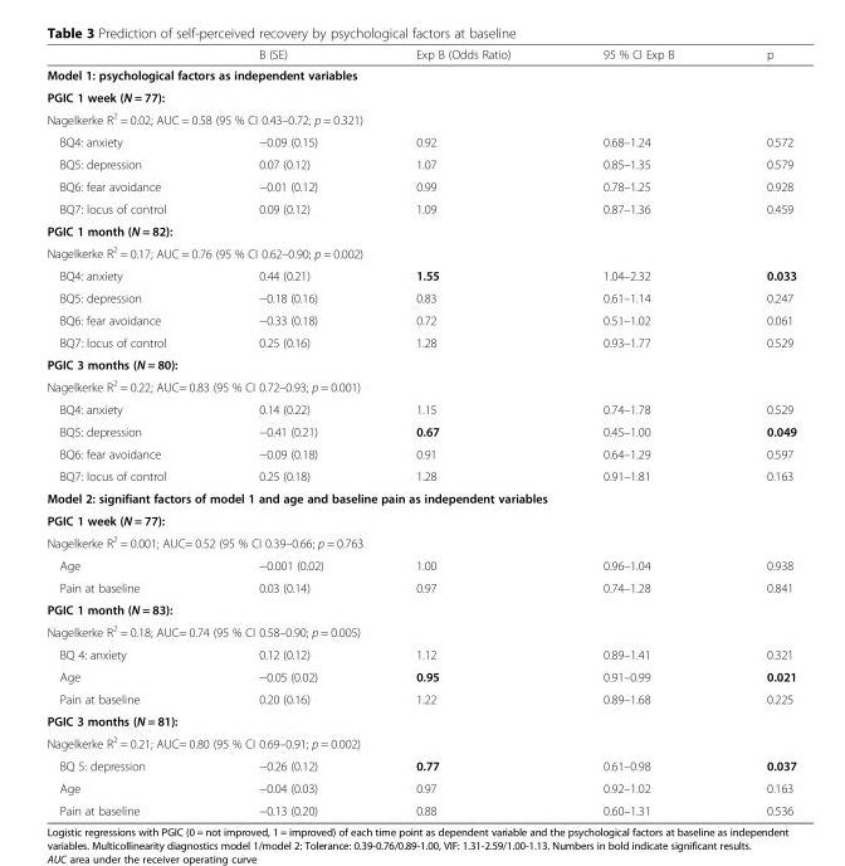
<table><thead><tr><td></td><td>B (SE)</td><td>Exp B (Odds Ratio)</td><td>95 % CI Exp B</td><td>p</td></tr></thead><tbody><tr><td colspan="5">Model 1: psychological factors as independent variables</td></tr><tr><td colspan="5">PGIC 1 week (N = 77):</td></tr><tr><td colspan="5">Nagelkerke R<sup>2</sup> = 0.02; AUC = 0.58 (95 % CI 0.43–0.72; p = 0.321)</td></tr><tr><td>BQ4: anxiety</td><td>−0.09 (0.15)</td><td>0.92</td><td>0.68–1.24</td><td>0.572</td></tr><tr><td>BQ5: depression</td><td>0.07 (0.12)</td><td>1.07</td><td>0.85–1.35</td><td>0.579</td></tr><tr><td>BQ6: fear avoidance</td><td>−0.01 (0.12)</td><td>0.99</td><td>0.78–1.25</td><td>0.928</td></tr><tr><td>BQ7: locus of control</td><td>0.09 (0.12)</td><td>1.09</td><td>0.87–1.36</td><td>0.459</td></tr><tr><td colspan="5">PGIC 1 month (N = 82):</td></tr><tr><td colspan="5">Nagelkerke R<sup>2</sup> = 0.17; AUC = 0.76 (95 % CI 0.62–0.90; p = 0.002)</td></tr><tr><td>BQ4: anxiety</td><td>0.44 (0.21)</td><td>1.55</td><td>1.04–2.32</td><td>0.033</td></tr><tr><td>BQ5: depression</td><td>−0.18 (0.16)</td><td>0.83</td><td>0.61–1.14</td><td>0.247</td></tr><tr><td>BQ6: fear avoidance</td><td>−0.33 (0.18)</td><td>0.72</td><td>0.51–1.02</td><td>0.061</td></tr><tr><td>BQ7: locus of control</td><td>0.25 (0.16)</td><td>1.28</td><td>0.93–1.77</td><td>0.529</td></tr><tr><td colspan="5">PGIC 3 months (N = 80):</td></tr><tr><td colspan="5">Nagelkerke R<sup>2</sup> = 0.22; AUC= 0.83 (95 % CI 0.72–0.93; p = 0.001)</td></tr><tr><td>BQ4: anxiety</td><td>0.14 (0.22)</td><td>1.15</td><td>0.74–1.78</td><td>0.529</td></tr><tr><td>BQ5: depression</td><td>−0.41 (0.21)</td><td>0.67</td><td>0.45–1.00</td><td>0.049</td></tr><tr><td>BQ6: fear avoidance</td><td>−0.09 (0.18)</td><td>0.91</td><td>0.64–1.29</td><td>0.597</td></tr><tr><td>BQ7: locus of control</td><td>0.25 (0.18)</td><td>1.28</td><td>0.91–1.81</td><td>0.163</td></tr><tr><td colspan="5">Model 2: signifiant factors of model 1 and age and baseline pain as independent variables</td></tr><tr><td colspan="5">PGIC 1 week (N = 77):</td></tr><tr><td colspan="5">Nagelkerke R<sup>2</sup> = 0.001; AUC= 0.52 (95 % CI 0.39–0.66; p = 0.763</td></tr><tr><td>Age</td><td>−0.001 (0.02)</td><td>1.00</td><td>0.96–1.04</td><td>0.938</td></tr><tr><td>Pain at baseline</td><td>0.03 (0.14)</td><td>0.97</td><td>0.74–1.28</td><td>0.841</td></tr><tr><td colspan="5">PGIC 1 month (N = 83):</td></tr><tr><td colspan="5">Nagelkerke R<sup>2</sup> = 0.18; AUC= 0.74 (95 % CI 0.58–0.90; p = 0.005)</td></tr><tr><td>BQ 4: anxiety</td><td>0.12 (0.12)</td><td>1.12</td><td>0.89–1.41</td><td>0.321</td></tr><tr><td>Age</td><td>−0.05 (0.02)</td><td>0.95</td><td>0.91–0.99</td><td>0.021</td></tr><tr><td>Pain at baseline</td><td>0.20 (0.16)</td><td>1.22</td><td>0.89–1.68</td><td>0.225</td></tr><tr><td colspan="5">PGIC 3 months (N = 81):</td></tr><tr><td colspan="5">Nagelkerke R<sup>2</sup> = 0.21; AUC= 0.80 (95 % CI 0.69–0.91; p = 0.002)</td></tr><tr><td>BQ 5: depression</td><td>−0.26 (0.12)</td><td>0.77</td><td>0.61–0.98</td><td>0.037</td></tr><tr><td>Age</td><td>−0.04 (0.03)</td><td>0.97</td><td>0.92–1.02</td><td>0.163</td></tr><tr><td>Pain at baseline</td><td>−0.13 (0.20)</td><td>0.88</td><td>0.60–1.31</td><td>0.536</td></tr></tbody></table>